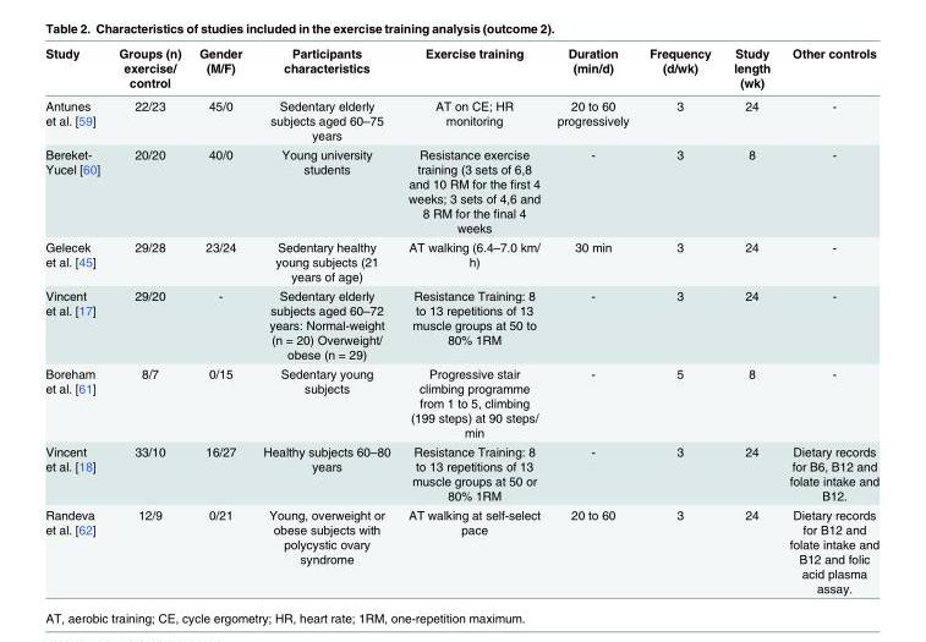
<table><thead><tr><td>Study</td><td>Groups (n) exercise/ control</td><td>Gender (M/F)</td><td>Participants characteristics</td><td>Exercise training</td><td>Duration (min/d)</td><td>Frequency (d/wk)</td><td>Study length (wk)</td><td>Other controls</td></tr></thead><tbody><tr><td>Antunes et al. [59]</td><td>22/23</td><td>45/0</td><td>Sedentary elderly subjects aged 60–75 years</td><td>AT on CE; HR monitoring</td><td>20 to 60 progressively</td><td>3</td><td>24</td><td>-</td></tr><tr><td>Bereket- Yucel [60]</td><td>20/20</td><td>40/0</td><td>Young university students</td><td>Resistance exercise training (3 sets of 6,8 and 10 RM for the first 4 weeks; 3 sets of 4,6 and 8 RM for the final 4 weeks</td><td>-</td><td>3</td><td>8</td><td>-</td></tr><tr><td>Gelecek et al. [45]</td><td>29/28</td><td>23/24</td><td>Sedentary healthy young subjects (21 years of age)</td><td>AT walking (6.4–7.0 km/ h)</td><td>30 min</td><td>3</td><td>24</td><td>-</td></tr><tr><td>Vincent et al. [17]</td><td>29/20</td><td>-</td><td>Sedentary elderly subjects aged 60–72 years: Normal-weight (n = 20) Overweight/ obese (n = 29)</td><td>Resistance Training: 8 to 13 repetitions of 13 muscle groups at 50 to 80% 1RM</td><td>-</td><td>3</td><td>24</td><td>-</td></tr><tr><td>Boreham et al. [61]</td><td>8/7</td><td>0/15</td><td>Sedentary young subjects</td><td>Progressive stair climbing programme from 1 to 5, climbing (199 steps) at 90 steps/ min</td><td>-</td><td>5</td><td>8</td><td>-</td></tr><tr><td>Vincent et al. [18]</td><td>33/10</td><td>16/27</td><td>Healthy subjects 60–80 years</td><td>Resistance Training: 8 to 13 repetitions of 13 muscle groups at 50 or 80% 1RM</td><td>-</td><td>3</td><td>24</td><td>Dietary records for B6, B12 and folate intake and B12.</td></tr><tr><td>Randeva et al. [62]</td><td>12/9</td><td>0/21</td><td>Young, overweight or obese subjects with polycystic ovary syndrome</td><td>AT walking at self-select pace</td><td>20 to 60</td><td>3</td><td>24</td><td>Dietary records for B12 and folate intake and B12 and folic acid plasma assay.</td></tr></tbody></table>